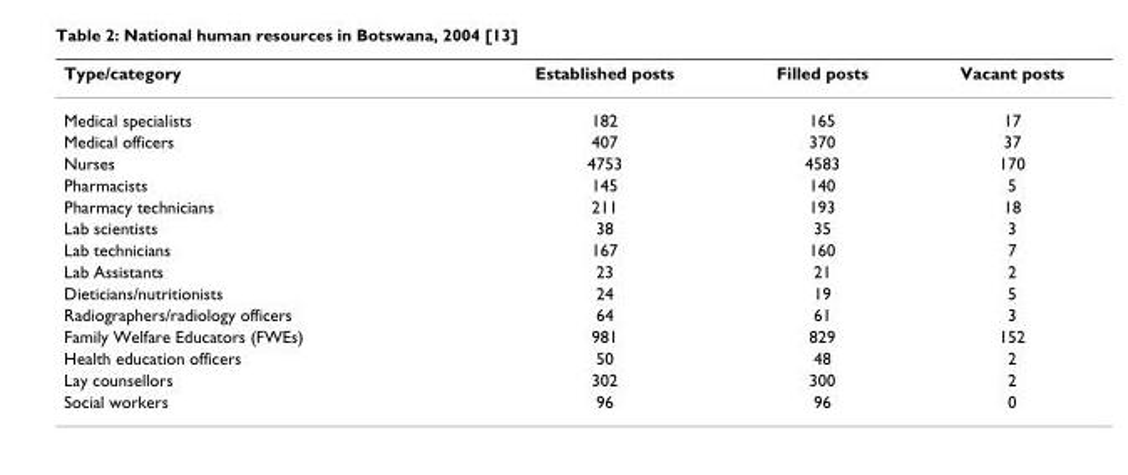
<table><thead><tr><td>Type/category</td><td>Established posts</td><td>Filled posts</td><td>Vacant posts</td></tr></thead><tbody><tr><td>Medical specialists</td><td>182</td><td>165</td><td>17</td></tr><tr><td>Medical officers</td><td>407</td><td>370</td><td>37</td></tr><tr><td>Nurses</td><td>4753</td><td>4583</td><td>170</td></tr><tr><td>Pharmacists</td><td>145</td><td>140</td><td>5</td></tr><tr><td>Pharmacy technicians</td><td>211</td><td>193</td><td>18</td></tr><tr><td>Lab scientists</td><td>38</td><td>35</td><td>3</td></tr><tr><td>Lab technicians</td><td>167</td><td>160</td><td>7</td></tr><tr><td>Lab Assistants</td><td>23</td><td>21</td><td>2</td></tr><tr><td>Dieticians/nutritionists</td><td>24</td><td>19</td><td>5</td></tr><tr><td>Radiographers/radiology officers</td><td>64</td><td>61</td><td>3</td></tr><tr><td>Family Welfare Educators (FWEs)</td><td>981</td><td>829</td><td>152</td></tr><tr><td>Health education officers</td><td>50</td><td>48</td><td>2</td></tr><tr><td>Lay counsellors</td><td>302</td><td>300</td><td>2</td></tr><tr><td>Social workers</td><td>96</td><td>96</td><td>0</td></tr></tbody></table>